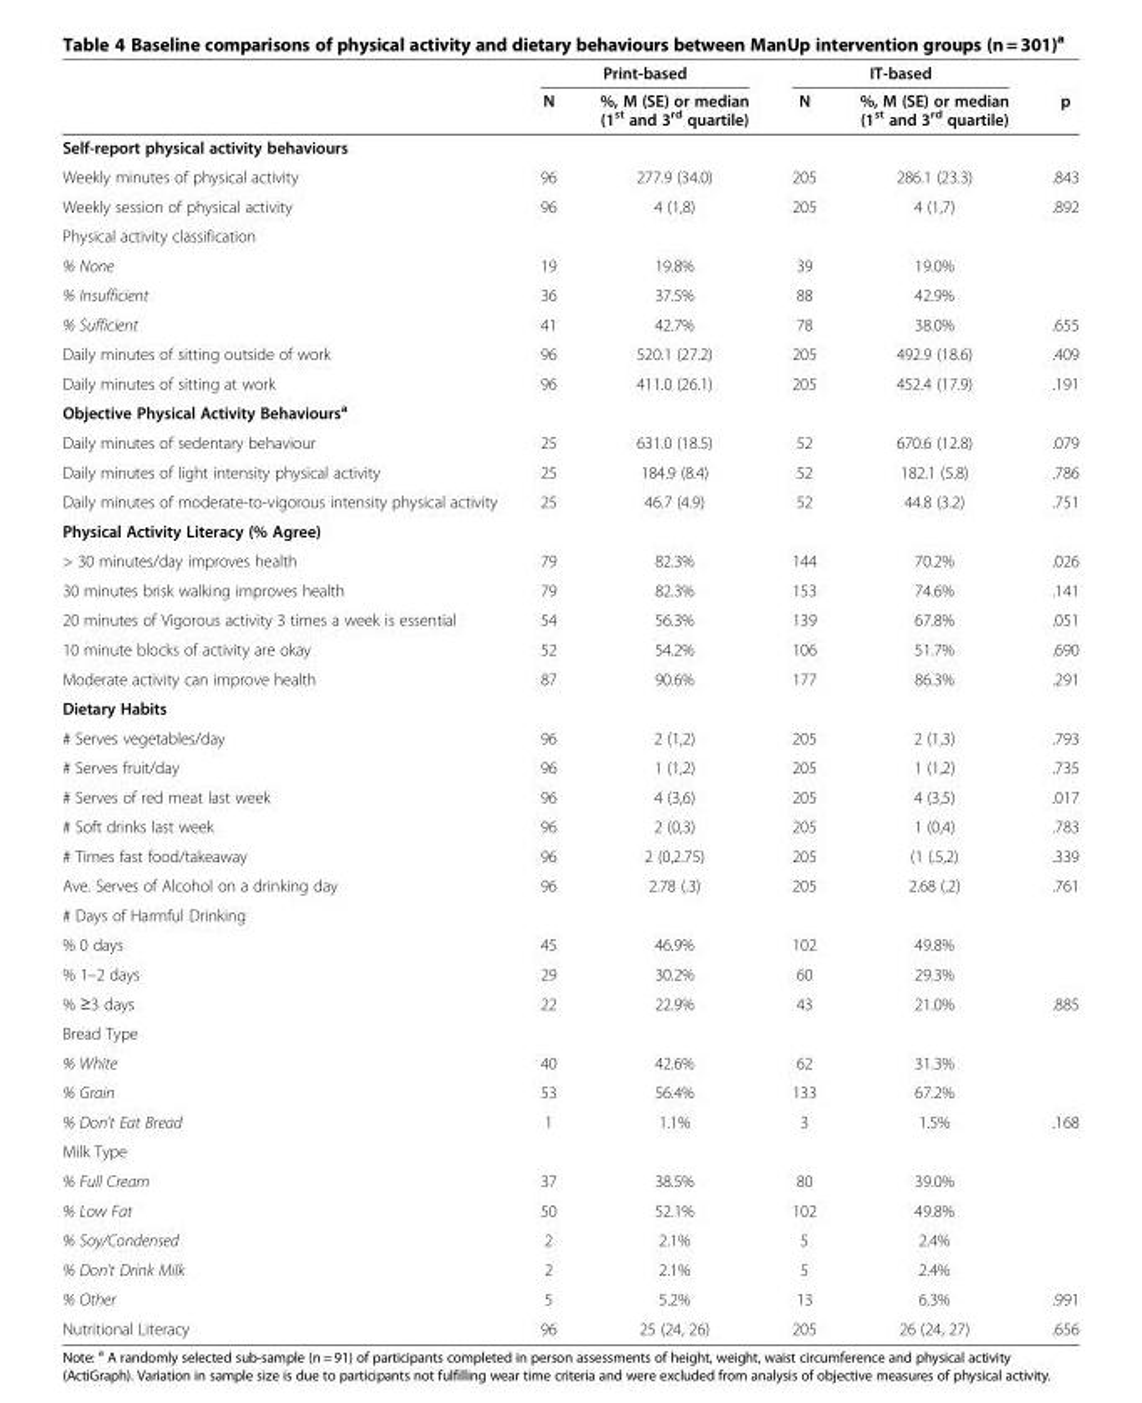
<table><thead><tr><td rowspan="2"></td><td colspan="2">Print-based</td><td colspan="2">IT-based</td><td rowspan="2">p</td></tr><tr><td>N</td><td>%, M (SE) or median (1<sup>st</sup> and 3<sup>rd</sup> quartile)</td><td>N</td><td>%, M (SE) or median (1<sup>st</sup> and 3<sup>rd</sup> quartile)</td></tr></thead><tbody><tr><td colspan="6">Self-report physical activity behaviours</td></tr><tr><td>Weekly minutes of physical activity</td><td>96</td><td>277.9 (34.0)</td><td>205</td><td>286.1 (23.3)</td><td>.843</td></tr><tr><td>Weekly session of physical activity</td><td>96</td><td>4 (1,8)</td><td>205</td><td>4 (1,7)</td><td>.892</td></tr><tr><td colspan="6">Physical activity classification</td></tr><tr><td>% None</td><td>19</td><td>19.8%</td><td>39</td><td>19.0%</td><td></td></tr><tr><td>% Insufficient</td><td>36</td><td>37.5%</td><td>88</td><td>42.9%</td><td></td></tr><tr><td>% Sufficient</td><td>41</td><td>42.7%</td><td>78</td><td>38.0%</td><td>.655</td></tr><tr><td>Daily minutes of sitting outside of work</td><td>96</td><td>520.1 (27.2)</td><td>205</td><td>492.9 (18.6)</td><td>.409</td></tr><tr><td>Daily minutes of sitting at work</td><td>96</td><td>411.0 (26.1)</td><td>205</td><td>452.4 (17.9)</td><td>.191</td></tr><tr><td colspan="6">Objective Physical Activity Behaviours<sup>a</sup></td></tr><tr><td>Daily minutes of sedentary behaviour</td><td>25</td><td>631.0 (18.5)</td><td>52</td><td>670.6 (12.8)</td><td>.079</td></tr><tr><td>Daily minutes of light intensity physical activity</td><td>25</td><td>184.9 (8.4)</td><td>52</td><td>182.1 (5.8)</td><td>.786</td></tr><tr><td>Daily minutes of moderate-to-vigorous intensity physical activity</td><td>25</td><td>46.7 (4.9)</td><td>52</td><td>44.8 (3.2)</td><td>.751</td></tr><tr><td colspan="6">Physical Activity Literacy (% Agree)</td></tr><tr><td>&gt; 30 minutes/day improves health</td><td>79</td><td>82.3%</td><td>144</td><td>70.2%</td><td>.026</td></tr><tr><td>30 minutes brisk walking improves health</td><td>79</td><td>82.3%</td><td>153</td><td>74.6%</td><td>.141</td></tr><tr><td>20 minutes of Vigorous activity 3 times a week is essential</td><td>54</td><td>56.3%</td><td>139</td><td>67.8%</td><td>.051</td></tr><tr><td>10 minute blocks of activity are okay</td><td>52</td><td>54.2%</td><td>106</td><td>51.7%</td><td>.690</td></tr><tr><td>Moderate activity can improve health</td><td>87</td><td>90.6%</td><td>177</td><td>86.3%</td><td>.291</td></tr><tr><td colspan="6">Dietary Habits</td></tr><tr><td># Serves vegetables/day</td><td>96</td><td>2 (1,2)</td><td>205</td><td>2 (1,3)</td><td>.793</td></tr><tr><td># Serves fruit/day</td><td>96</td><td>1 (1,2)</td><td>205</td><td>1 (1,2)</td><td>.735</td></tr><tr><td># Serves of red meat last week</td><td>96</td><td>4 (3,6)</td><td>205</td><td>4 (3,5)</td><td>.017</td></tr><tr><td># Soft drinks last week</td><td>96</td><td>2 (0,3)</td><td>205</td><td>1 (0,4)</td><td>.783</td></tr><tr><td># Times fast food/takeaway</td><td>96</td><td>2 (0,2.75)</td><td>205</td><td>(1 (.5,2)</td><td>.339</td></tr><tr><td>Ave. Serves of Alcohol on a drinking day</td><td>96</td><td>2.78 (.3)</td><td>205</td><td>2.68 (.2)</td><td>.761</td></tr><tr><td colspan="6"># Days of Harmful Drinking</td></tr><tr><td>% 0 days</td><td>45</td><td>46.9%</td><td>102</td><td>49.8%</td><td></td></tr><tr><td>% 1–2 days</td><td>29</td><td>30.2%</td><td>60</td><td>29.3%</td><td></td></tr><tr><td>% ≥3 days</td><td>22</td><td>22.9%</td><td>43</td><td>21.0%</td><td>.885</td></tr><tr><td colspan="6">Bread Type</td></tr><tr><td>% White</td><td>40</td><td>42.6%</td><td>62</td><td>31.3%</td><td></td></tr><tr><td>% Grain</td><td>53</td><td>56.4%</td><td>133</td><td>67.2%</td><td></td></tr><tr><td>% Don’t Eat Bread</td><td>1</td><td>1.1%</td><td>3</td><td>1.5%</td><td>.168</td></tr><tr><td colspan="6">Milk Type</td></tr><tr><td>% Full Cream</td><td>37</td><td>38.5%</td><td>80</td><td>39.0%</td><td></td></tr><tr><td>% Low Fat</td><td>50</td><td>52.1%</td><td>102</td><td>49.8%</td><td></td></tr><tr><td>% Soy/Condensed</td><td>2</td><td>2.1%</td><td>5</td><td>2.4%</td><td></td></tr><tr><td>% Don’t Drink Milk</td><td>2</td><td>2.1%</td><td>5</td><td>2.4%</td><td></td></tr><tr><td>% Other</td><td>5</td><td>5.2%</td><td>13</td><td>6.3%</td><td>.991</td></tr><tr><td>Nutritional Literacy</td><td>96</td><td>25 (24, 26)</td><td>205</td><td>26 (24, 27)</td><td>.656</td></tr></tbody></table>